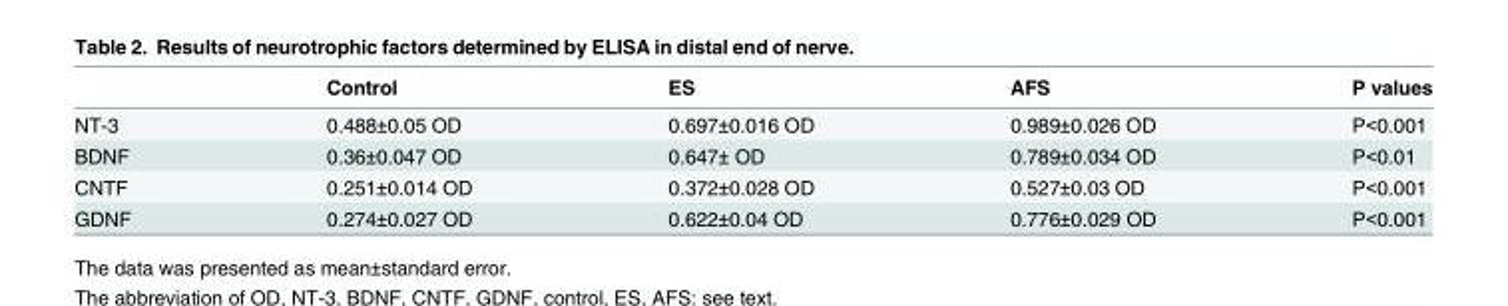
<table><thead><tr><td></td><td>Control</td><td>ES</td><td>AFS</td><td>P values</td></tr></thead><tbody><tr><td>NT-3</td><td>0.488±0.05 OD</td><td>0.697±0.016 OD</td><td>0.989±0.026 OD</td><td>P&lt;0.001</td></tr><tr><td>BDNF</td><td>0.36±0.047 OD</td><td>0.647± OD</td><td>0.789±0.034 OD</td><td>P&lt;0.01</td></tr><tr><td>CNTF</td><td>0.251±0.014 OD</td><td>0.372±0.028 OD</td><td>0.527±0.03 OD</td><td>P&lt;0.001</td></tr><tr><td>GDNF</td><td>0.274±0.027 OD</td><td>0.622±0.04 OD</td><td>0.776±0.029 OD</td><td>P&lt;0.001</td></tr></tbody></table>